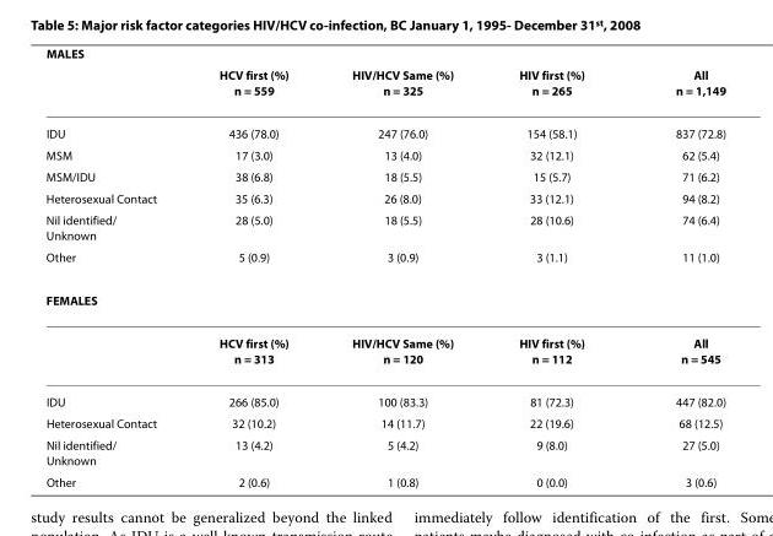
<table><thead><tr><td colspan="5">MALES</td></tr><tr><td></td><td>HCV first (%) n = 559</td><td>HIV/HCV Same (%) n = 325</td><td>HIV first (%) n = 265</td><td>All n = 1,149</td></tr></thead><tbody><tr><td>IDU</td><td>436 (78.0)</td><td>247 (76.0)</td><td>154 (58.1)</td><td>837 (72.8)</td></tr><tr><td>MSM</td><td>17 (3.0)</td><td>13 (4.0)</td><td>32 (12.1)</td><td>62 (5.4)</td></tr><tr><td>MSM/IDU</td><td>38 (6.8)</td><td>18 (5.5)</td><td>15 (5.7)</td><td>71 (6.2)</td></tr><tr><td>Heterosexual Contact</td><td>35 (6.3)</td><td>26 (8.0)</td><td>33 (12.1)</td><td>94 (8.2)</td></tr><tr><td>Nil identified/ Unknown</td><td>28 (5.0)</td><td>18 (5.5)</td><td>28 (10.6)</td><td>74 (6.4)</td></tr><tr><td>Other</td><td>5 (0.9)</td><td>3 (0.9)</td><td>3 (1.1)</td><td>11 (1.0)</td></tr><tr><td colspan="5">FEMALES</td></tr><tr><td></td><td>HCV first (%) n = 313</td><td>HIV/HCV Same (%) n = 120</td><td>HIV first (%) n = 112</td><td>All n = 545</td></tr><tr><td>IDU</td><td>266 (85.0)</td><td>100 (83.3)</td><td>81 (72.3)</td><td>447 (82.0)</td></tr><tr><td>Heterosexual Contact</td><td>32 (10.2)</td><td>14 (11.7)</td><td>22 (19.6)</td><td>68 (12.5)</td></tr><tr><td>Nil identified/ Unknown</td><td>13 (4.2)</td><td>5 (4.2)</td><td>9 (8.0)</td><td>27 (5.0)</td></tr><tr><td>Other</td><td>2 (0.6)</td><td>1 (0.8)</td><td>0 (0.0)</td><td>3 (0.6)</td></tr></tbody></table>